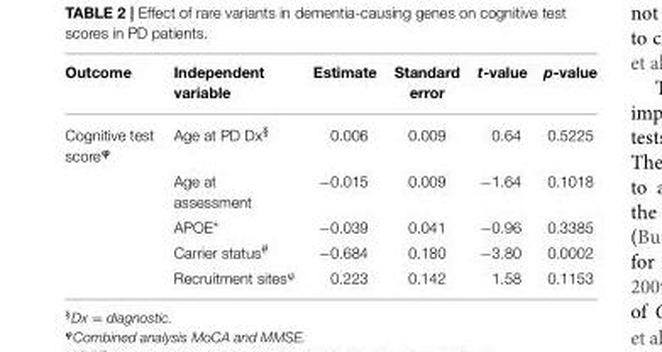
<table><thead><tr><td>Outcome</td><td>Independent variable</td><td>Estimate</td><td>Standard error</td><td>t-value</td><td>p-value</td></tr></thead><tbody><tr><td rowspan="5">Cognitive test score<sup>ϕ</sup></td><td>Age at PD Dx<sup>§</sup></td><td>0.006</td><td>0.009</td><td>0.64</td><td>0.5225</td></tr><tr><td>Age at assessment</td><td>−0.015</td><td>0.009</td><td>−1.64</td><td>0.1018</td></tr><tr><td>APOE*</td><td>−0.039</td><td>0.041</td><td>−0.96</td><td>0.3385</td></tr><tr><td>Carrier status<sup>#</sup></td><td>−0.684</td><td>0.180</td><td>−3.80</td><td>0.0002</td></tr><tr><td>Recruitment sites<sup>ϕ</sup></td><td>0.223</td><td>0.142</td><td>1.58</td><td>0.1153</td></tr></tbody></table>